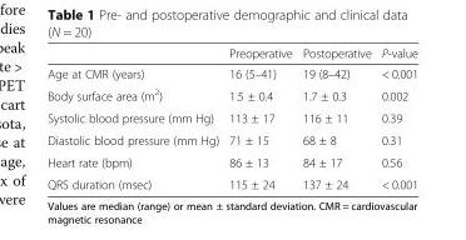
<table><thead><tr><td></td><td>Preoperative</td><td>Postoperative</td><td>P-value</td></tr></thead><tbody><tr><td>Age at CMR (years)</td><td>16 (5–41)</td><td>19 (8–42)</td><td>&lt; 0.001</td></tr><tr><td>Body surface area (m<sup>2</sup>)</td><td>1.5 ± 0.4</td><td>1.7 ± 0.3</td><td>0.002</td></tr><tr><td>Systolic blood pressure (mm Hg)</td><td>113 ± 17</td><td>116 ± 11</td><td>0.39</td></tr><tr><td>Diastolic blood pressure (mm Hg)</td><td>71 ± 15</td><td>68 ± 8</td><td>0.31</td></tr><tr><td>Heart rate (bpm)</td><td>86 ± 13</td><td>84 ± 17</td><td>0.56</td></tr><tr><td>QRS duration (msec)</td><td>115 ± 24</td><td>137 ± 24</td><td>&lt; 0.001</td></tr></tbody></table>